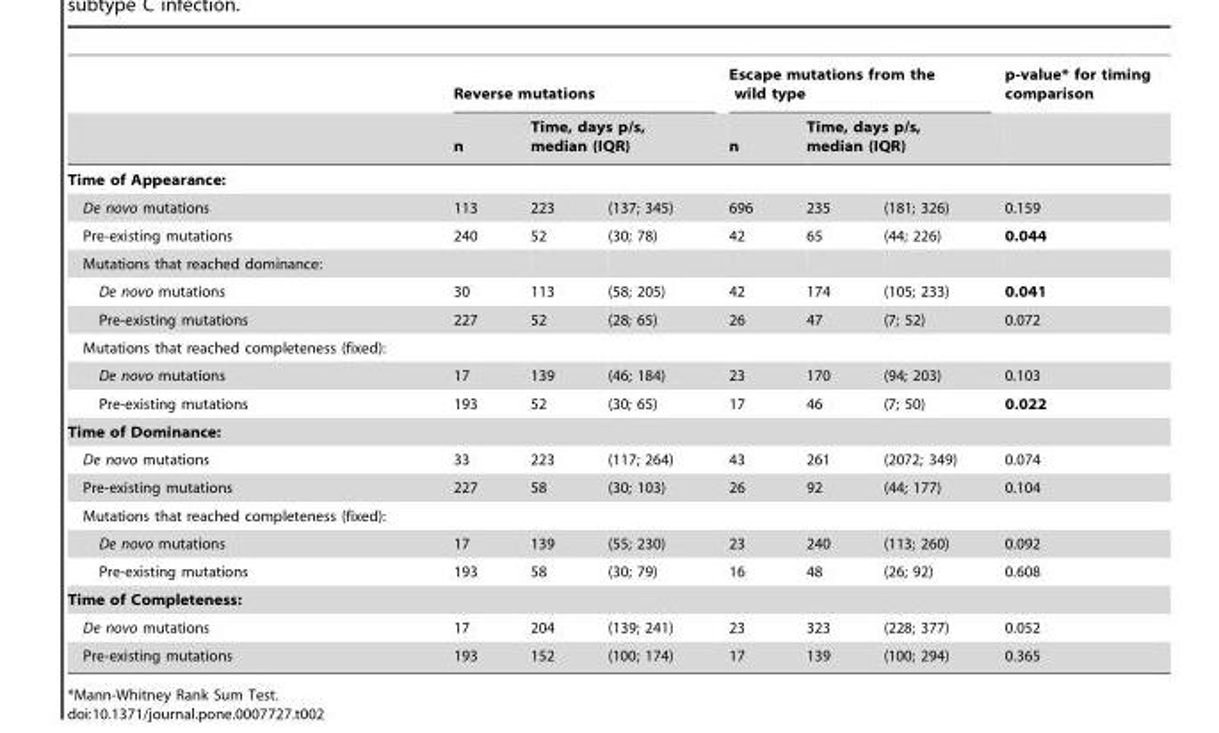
<table><thead><tr><td rowspan="2"></td><td colspan="3">Reverse mutations</td><td colspan="3">Escape mutations from the wild type</td><td rowspan="2">p-value* for timing comparison</td></tr><tr><td>n</td><td colspan="2">Time, days p/s, median (IQR)</td><td>n</td><td colspan="2">Time, days p/s, median (IQR)</td></tr><tr><td colspan="8">Time of Appearance:</td></tr><tr><td>De novo mutations</td><td>113</td><td>223</td><td>(137; 345)</td><td>696</td><td>235</td><td>(181; 326)</td><td>0.159</td></tr></thead><tbody><tr><td>Pre-existing mutations</td><td>240</td><td>52</td><td>(30; 78)</td><td>42</td><td>65</td><td>(44; 226)</td><td>0.044</td></tr><tr><td colspan="8">Mutations that reached dominance:</td></tr><tr><td>De novo mutations</td><td>30</td><td>113</td><td>(58; 205)</td><td>42</td><td>174</td><td>(105; 233)</td><td>0.041</td></tr><tr><td>Pre-existing mutations</td><td>227</td><td>52</td><td>(28; 65)</td><td>26</td><td>47</td><td>(7; 52)</td><td>0.072</td></tr><tr><td colspan="8">Mutations that reached completeness (fixed):</td></tr><tr><td>De novo mutations</td><td>17</td><td>139</td><td>(46; 184)</td><td>23</td><td>170</td><td>(94; 203)</td><td>0.103</td></tr><tr><td>Pre-existing mutations</td><td>193</td><td>52</td><td>(30; 65)</td><td>17</td><td>46</td><td>(7; 50)</td><td>0.022</td></tr><tr><td colspan="8">Time of Dominance:</td></tr><tr><td>De novo mutations</td><td>33</td><td>223</td><td>(117; 264)</td><td>43</td><td>261</td><td>(2072; 349)</td><td>0.074</td></tr><tr><td>Pre-existing mutations</td><td>227</td><td>58</td><td>(30; 103)</td><td>26</td><td>92</td><td>(44; 177)</td><td>0.104</td></tr><tr><td colspan="8">Mutations that reached completeness (fixed):</td></tr><tr><td>De novo mutations</td><td>17</td><td>139</td><td>(55; 230)</td><td>23</td><td>240</td><td>(113; 260)</td><td>0.092</td></tr><tr><td>Pre-existing mutations</td><td>193</td><td>58</td><td>(30; 79)</td><td>16</td><td>48</td><td>(26; 92)</td><td>0.608</td></tr><tr><td colspan="8">Time of Completeness:</td></tr><tr><td>De novo mutations</td><td>17</td><td>204</td><td>(139; 241)</td><td>23</td><td>323</td><td>(228; 377)</td><td>0.052</td></tr><tr><td>Pre-existing mutations</td><td>193</td><td>152</td><td>(100; 174)</td><td>17</td><td>139</td><td>(100; 294)</td><td>0.365</td></tr></tbody></table>